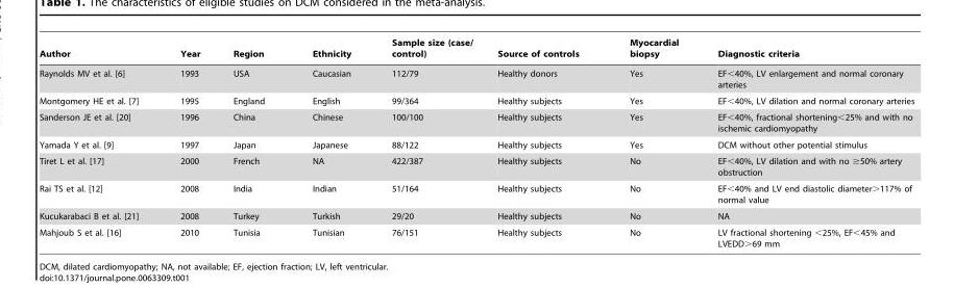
<table><thead><tr><td>Author</td><td>Year</td><td>Region</td><td>Ethnicity</td><td>Sample size (case/ control)</td><td>Source of controls</td><td>Myocardial biopsy</td><td>Diagnostic criteria</td></tr></thead><tbody><tr><td>Raynolds MV et al. [6]</td><td>1993</td><td>USA</td><td>Caucasian</td><td>112/79</td><td>Healthy donors</td><td>Yes</td><td>EF&lt;40%, LV enlargement and normal coronary arteries</td></tr><tr><td>Montgomery HE et al. [7]</td><td>1995</td><td>England</td><td>English</td><td>99/364</td><td>Healthy subjects</td><td>Yes</td><td>EF&lt;40%, LV dilation and normal coronary arteries</td></tr><tr><td>Sanderson JE et al. [20]</td><td>1996</td><td>China</td><td>Chinese</td><td>100/100</td><td>Healthy subjects</td><td>Yes</td><td>EF&lt;40%, fractional shortening&lt;25% and with no ischemic cardiomyopathy</td></tr><tr><td>Yamada Y et al. [9]</td><td>1997</td><td>Japan</td><td>Japanese</td><td>88/122</td><td>Healthy subjects</td><td>Yes</td><td>DCM without other potential stimulus</td></tr><tr><td>Tiret L et al. [17]</td><td>2000</td><td>French</td><td>NA</td><td>422/387</td><td>Healthy subjects</td><td>No</td><td>EF&lt;40%, LV dilation and with no ≥50% artery obstruction</td></tr><tr><td>Rai TS et al. [12]</td><td>2008</td><td>India</td><td>Indian</td><td>51/164</td><td>Healthy subjects</td><td>No</td><td>EF&lt;40% and LV end diastolic diameter&gt;117% of normal value</td></tr><tr><td>Kucukarabaci B et al. [21]</td><td>2008</td><td>Turkey</td><td>Turkish</td><td>29/20</td><td>Healthy subjects</td><td>No</td><td>NA</td></tr><tr><td>Mahjoub S et al. [16]</td><td>2010</td><td>Tunisia</td><td>Tunisian</td><td>76/151</td><td>Healthy subjects</td><td>No</td><td>LV fractional shortening &lt;25%, EF&lt;45% and LVEDD&gt;69 mm</td></tr></tbody></table>